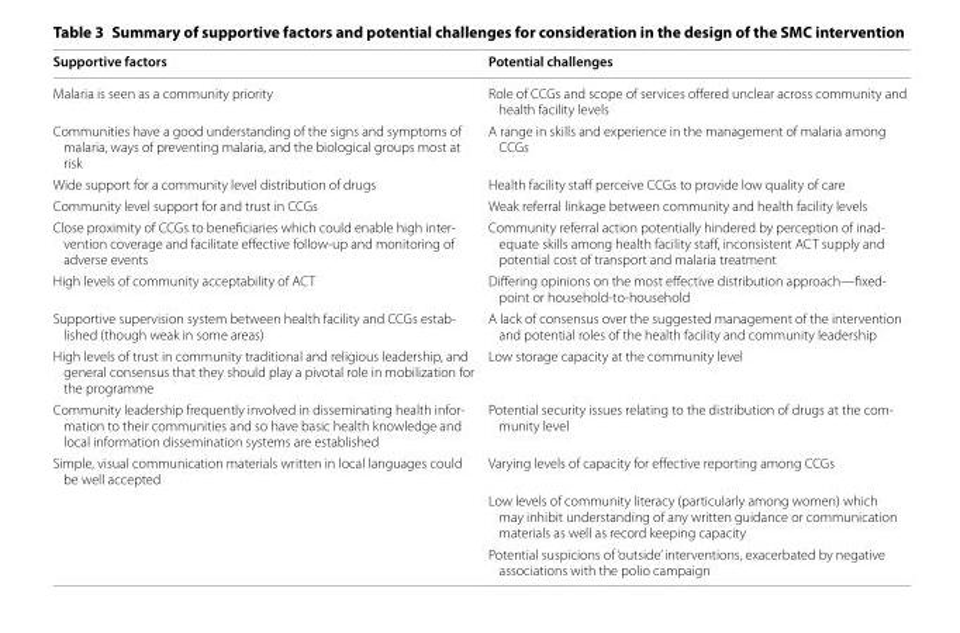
<table><thead><tr><td>Supportive factors</td><td>Potential challenges</td></tr></thead><tbody><tr><td>Malaria is seen as a community priority</td><td>Role of CCGs and scope of services offered unclear across community and health facility levels</td></tr><tr><td>Communities have a good understanding of the signs and symptoms of malaria, ways of preventing malaria, and the biological groups most at risk</td><td>A range in skills and experience in the management of malaria among CCGs</td></tr><tr><td>Wide support for a community level distribution of drugs</td><td>Health facility staff perceive CCGs to provide low quality of care</td></tr><tr><td>Community level support for and trust in CCGs</td><td>Weak referral linkage between community and health facility levels</td></tr><tr><td>Close proximity of CCGs to beneficiaries which could enable high inter- vention coverage and facilitate effective follow-up and monitoring of adverse events</td><td>Community referral action potentially hindered by perception of inad- equate skills among health facility staff, inconsistent ACT supply and potential cost of transport and malaria treatment</td></tr><tr><td>High levels of community acceptability of ACT</td><td>Differing opinions on the most effective distribution approach—fixed- point or household-to-household</td></tr><tr><td>Supportive supervision system between health facility and CCGs estab- lished (though weak in some areas)</td><td>A lack of consensus over the suggested management of the intervention and potential roles of the health facility and community leadership</td></tr><tr><td>High levels of trust in community traditional and religious leadership, and general consensus that they should play a pivotal role in mobilization for the programme</td><td>Low storage capacity at the community level</td></tr><tr><td>Community leadership frequently involved in disseminating health infor- mation to their communities and so have basic health knowledge and local information dissemination systems are established</td><td>Potential security issues relating to the distribution of drugs at the com- munity level</td></tr><tr><td rowspan="3">Simple, visual communication materials written in local languages could be well accepted</td><td>Varying levels of capacity for effective reporting among CCGs</td></tr><tr><td>Low levels of community literacy (particularly among women) which may inhibit understanding of any written guidance or communication materials as well as record keeping capacity</td></tr><tr><td>Potential suspicions of ‘outside’ interventions, exacerbated by negative associations with the polio campaign</td></tr></tbody></table>